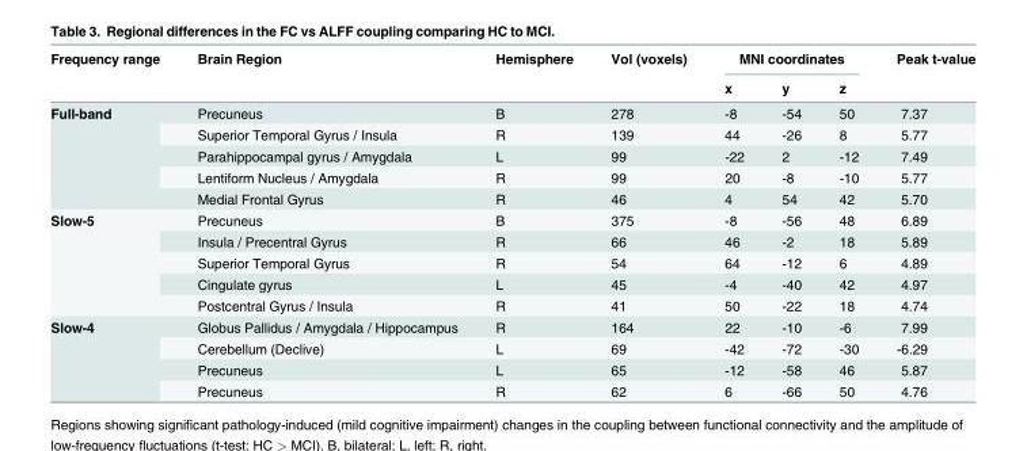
<table><thead><tr><td rowspan="2">Frequency range</td><td rowspan="2">Brain Region</td><td rowspan="2">Hemisphere</td><td rowspan="2">Vol (voxels)</td><td colspan="3">MNI coordinates</td><td rowspan="2">Peak t-value</td></tr><tr><td>x</td><td>y</td><td>z</td></tr></thead><tbody><tr><td rowspan="5">Full-band</td><td>Precuneus</td><td>B</td><td>278</td><td>-8</td><td>-54</td><td>50</td><td>7.37</td></tr><tr><td>Superior Temporal Gyrus / Insula</td><td>R</td><td>139</td><td>44</td><td>-26</td><td>8</td><td>5.77</td></tr><tr><td>Parahippocampal gyrus / Amygdala</td><td>L</td><td>99</td><td>-22</td><td>2</td><td>-12</td><td>7.49</td></tr><tr><td>Lentiform Nucleus / Amygdala</td><td>R</td><td>99</td><td>20</td><td>-8</td><td>-10</td><td>5.77</td></tr><tr><td>Medial Frontal Gyrus</td><td>R</td><td>46</td><td>4</td><td>54</td><td>42</td><td>5.70</td></tr><tr><td rowspan="5">Slow-5</td><td>Precuneus</td><td>B</td><td>375</td><td>-8</td><td>-56</td><td>48</td><td>6.89</td></tr><tr><td>Insula / Precentral Gyrus</td><td>R</td><td>66</td><td>46</td><td>-2</td><td>18</td><td>5.89</td></tr><tr><td>Superior Temporal Gyrus</td><td>R</td><td>54</td><td>64</td><td>-12</td><td>6</td><td>4.89</td></tr><tr><td>Cingulate gyrus</td><td>L</td><td>45</td><td>-4</td><td>-40</td><td>42</td><td>4.97</td></tr><tr><td>Postcentral Gyrus / Insula</td><td>R</td><td>41</td><td>50</td><td>-22</td><td>18</td><td>4.74</td></tr><tr><td rowspan="4">Slow-4</td><td>Globus Pallidus / Amygdala / Hippocampus</td><td>R</td><td>164</td><td>22</td><td>-10</td><td>-6</td><td>7.99</td></tr><tr><td>Cerebellum (Declive)</td><td>L</td><td>69</td><td>-42</td><td>-72</td><td>-30</td><td>-6.29</td></tr><tr><td>Precuneus</td><td>L</td><td>65</td><td>-12</td><td>-58</td><td>46</td><td>5.87</td></tr><tr><td>Precuneus</td><td>R</td><td>62</td><td>6</td><td>-66</td><td>50</td><td>4.76</td></tr></tbody></table>